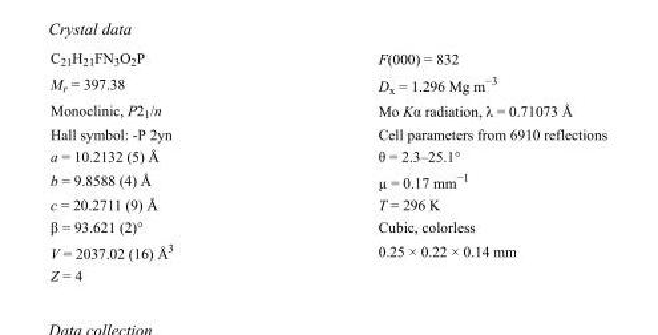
<table><tbody><tr><td>C<sub>21</sub>H<sub>21</sub>FN<sub>3</sub>O<sub>2</sub>P</td><td>F(000) = 832</td></tr><tr><td>M<sub>r</sub> = 397.38</td><td>D<sub>x</sub> = 1.296 Mg m<sup>−3</sup></td></tr><tr><td>Monoclinic, P2<sub>1</sub>/n</td><td>Mo Kα radiation, λ = 0.71073 Å</td></tr><tr><td>Hall symbol: -P 2yn</td><td>Cell parameters from 6910 reflections</td></tr><tr><td>a = 10.2132 (5) Å</td><td>θ = 2.3–25.1°</td></tr><tr><td>b = 9.8588 (4) Å</td><td>µ = 0.17 mm<sup>−1</sup></td></tr><tr><td>c = 20.2711 (9) Å</td><td>T = 296 K</td></tr><tr><td>β = 93.621 (2)°</td><td>Cubic, colorless</td></tr><tr><td>V = 2037.02 (16) Å<sup>3</sup></td><td>0.25 × 0.22 × 0.14 mm</td></tr><tr><td>Z = 4</td><td></td></tr></tbody></table>